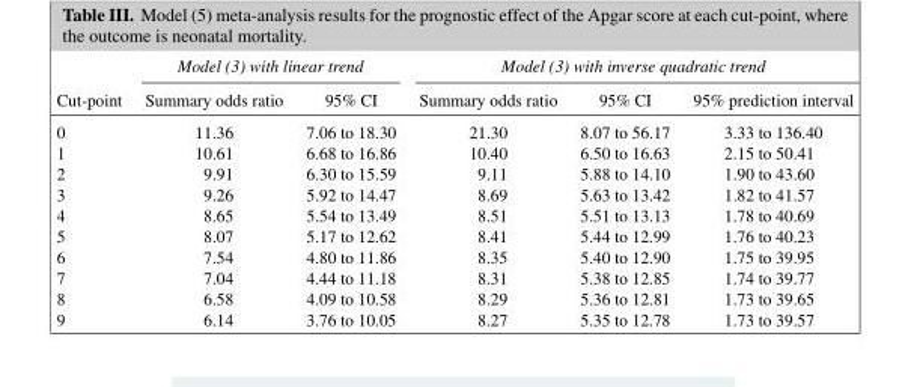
<table><thead><tr><td rowspan="2">Cut-point</td><td colspan="2">Model (3) with linear trend</td><td colspan="3">Model (3) with inverse quadratic trend</td></tr><tr><td>Summary odds ratio</td><td>95% CI</td><td>Summary odds ratio</td><td>95% CI</td><td>95% prediction interval</td></tr></thead><tbody><tr><td>0</td><td>11.36</td><td>7.06 to 18.30</td><td>21.30</td><td>8.07 to 56.17</td><td>3.33 to 136.40</td></tr><tr><td>1</td><td>10.61</td><td>6.68 to 16.86</td><td>10.40</td><td>6.50 to 16.63</td><td>2.15 to 50.41</td></tr><tr><td>2</td><td>9.91</td><td>6.30 to 15.59</td><td>9.11</td><td>5.88 to 14.10</td><td>1.90 to 43.60</td></tr><tr><td>3</td><td>9.26</td><td>5.92 to 14.47</td><td>8.69</td><td>5.63 to 13.42</td><td>1.82 to 41.57</td></tr><tr><td>4</td><td>8.65</td><td>5.54 to 13.49</td><td>8.51</td><td>5.51 to 13.13</td><td>1.78 to 40.69</td></tr><tr><td>5</td><td>8.07</td><td>5.17 to 12.62</td><td>8.41</td><td>5.44 to 12.99</td><td>1.76 to 40.23</td></tr><tr><td>6</td><td>7.54</td><td>4.80 to 11.86</td><td>8.35</td><td>5.40 to 12.90</td><td>1.75 to 39.95</td></tr><tr><td>7</td><td>7.04</td><td>4.44 to 11.18</td><td>8.31</td><td>5.38 to 12.85</td><td>1.74 to 39.77</td></tr><tr><td>8</td><td>6.58</td><td>4.09 to 10.58</td><td>8.29</td><td>5.36 to 12.81</td><td>1.73 to 39.65</td></tr><tr><td>9</td><td>6.14</td><td>3.76 to 10.05</td><td>8.27</td><td>5.35 to 12.78</td><td>1.73 to 39.57</td></tr></tbody></table>